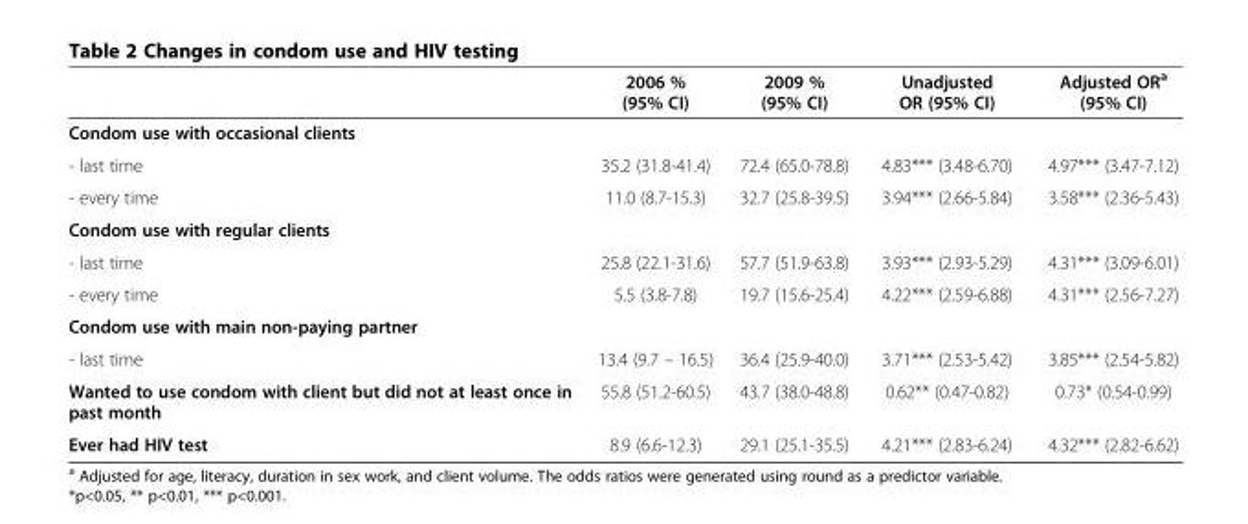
<table><thead><tr><td></td><td>2006 % (95% CI)</td><td>2009 % (95% CI)</td><td>Unadjusted OR (95% CI)</td><td>Adjusted OR<sup>a</sup> (95% CI)</td></tr></thead><tbody><tr><td colspan="5">Condom use with occasional clients</td></tr><tr><td>- last time</td><td>35.2 (31.8-41.4)</td><td>72.4 (65.0-78.8)</td><td>4.83*** (3.48-6.70)</td><td>4.97*** (3.47-7.12)</td></tr><tr><td>- every time</td><td>11.0 (8.7-15.3)</td><td>32.7 (25.8-39.5)</td><td>3.94*** (2.66-5.84)</td><td>3.58*** (2.36-5.43)</td></tr><tr><td colspan="5">Condom use with regular clients</td></tr><tr><td>- last time</td><td>25.8 (22.1-31.6)</td><td>57.7 (51.9-63.8)</td><td>3.93*** (2.93-5.29)</td><td>4.31*** (3.09-6.01)</td></tr><tr><td>- every time</td><td>5.5 (3.8-7.8)</td><td>19.7 (15.6-25.4)</td><td>4.22*** (2.59-6.88)</td><td>4.31*** (2.56-7.27)</td></tr><tr><td colspan="5">Condom use with main non-paying partner</td></tr><tr><td>- last time</td><td>13.4 (9.7 – 16.5)</td><td>36.4 (25.9-40.0)</td><td>3.71*** (2.53-5.42)</td><td>3.85*** (2.54-5.82)</td></tr><tr><td>Wanted to use condom with client but did not at least once in past month</td><td>55.8 (51.2-60.5)</td><td>43.7 (38.0-48.8)</td><td>0.62** (0.47-0.82)</td><td>0.73* (0.54-0.99)</td></tr><tr><td>Ever had HIV test</td><td>8.9 (6.6-12.3)</td><td>29.1 (25.1-35.5)</td><td>4.21*** (2.83-6.24)</td><td>4.32*** (2.82-6.62)</td></tr></tbody></table>